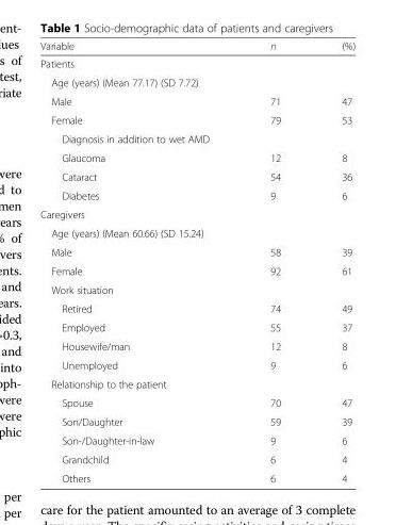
<table><thead><tr><td>Variable</td><td>n</td><td>(%)</td></tr></thead><tbody><tr><td colspan="3">Patients</td></tr><tr><td colspan="3">Age (years) (Mean 77.17) (SD 7.72)</td></tr><tr><td>Male</td><td>71</td><td>47</td></tr><tr><td>Female</td><td>79</td><td>53</td></tr><tr><td colspan="3">Diagnosis in addition to wet AMD</td></tr><tr><td>Glaucoma</td><td>12</td><td>8</td></tr><tr><td>Cataract</td><td>54</td><td>36</td></tr><tr><td>Diabetes</td><td>9</td><td>6</td></tr><tr><td colspan="3">Caregivers</td></tr><tr><td colspan="3">Age (years) (Mean 60.66) (SD 15.24)</td></tr><tr><td>Male</td><td>58</td><td>39</td></tr><tr><td>Female</td><td>92</td><td>61</td></tr><tr><td colspan="3">Work situation</td></tr><tr><td>Retired</td><td>74</td><td>49</td></tr><tr><td>Employed</td><td>55</td><td>37</td></tr><tr><td>Housewife/man</td><td>12</td><td>8</td></tr><tr><td>Unemployed</td><td>9</td><td>6</td></tr><tr><td colspan="3">Relationship to the patient</td></tr><tr><td>Spouse</td><td>70</td><td>47</td></tr><tr><td>Son/Daughter</td><td>59</td><td>39</td></tr><tr><td>Son-/Daughter-in-law</td><td>9</td><td>6</td></tr><tr><td>Grandchild</td><td>6</td><td>4</td></tr><tr><td>Others</td><td>6</td><td>4</td></tr></tbody></table>